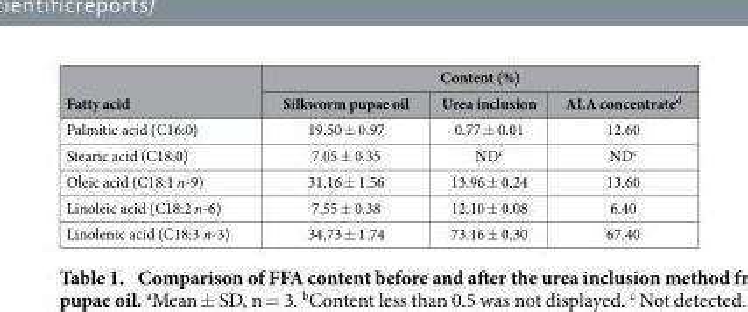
<table><thead><tr><td rowspan="2">Fatty acid</td><td colspan="3">Content (%)</td></tr><tr><td>Silkworm pupae oil</td><td>Urea inclusion</td><td>ALA concentrate<sup>d</sup></td></tr></thead><tbody><tr><td>Palmitic acid (C16:0)</td><td>19.50 ± 0.97</td><td>0.77 ± 0.01</td><td>12.60</td></tr><tr><td>Stearic acid (C18:0)</td><td>7.05 ± 0.35</td><td>ND<sup>c</sup></td><td>ND<sup>c</sup></td></tr><tr><td>Oleic acid (C18:1 n-9)</td><td>31.16 ± 1.56</td><td>13.96 ± 0.24</td><td>13.60</td></tr><tr><td>Linoleic acid (C18:2 n-6)</td><td>7.55 ± 0.38</td><td>12.10 ± 0.08</td><td>6.40</td></tr><tr><td>Linolenic acid (C18:3 n-3)</td><td>34.73 ± 1.74</td><td>73.16 ± 0.30</td><td>67.40</td></tr></tbody></table>